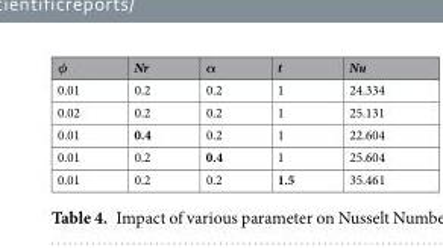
<table><thead><tr><td>φ</td><td>Nr</td><td>α</td><td>t</td><td>Nu</td></tr></thead><tbody><tr><td>0.01</td><td>0.2</td><td>0.2</td><td>1</td><td>24.334</td></tr><tr><td>0.02</td><td>0.2</td><td>0.2</td><td>1</td><td>25.131</td></tr><tr><td>0.01</td><td>0.4</td><td>0.2</td><td>1</td><td>22.604</td></tr><tr><td>0.01</td><td>0.2</td><td>0.4</td><td>1</td><td>25.604</td></tr><tr><td>0.01</td><td>0.2</td><td>0.2</td><td>1.5</td><td>35.461</td></tr></tbody></table>